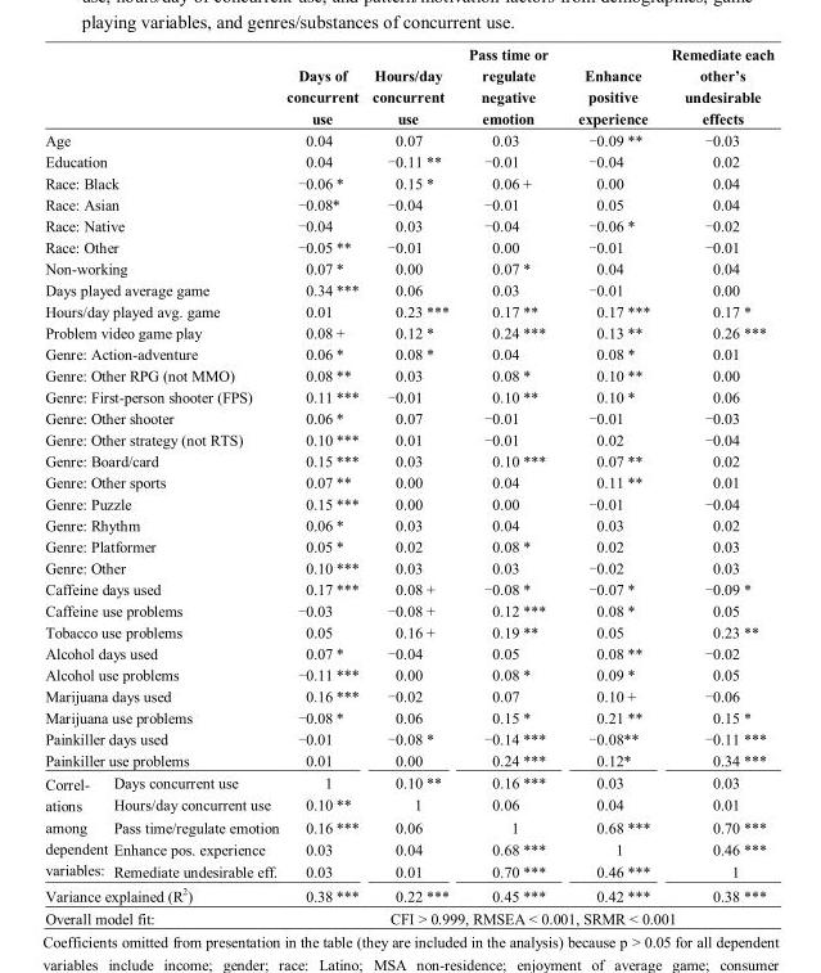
<table><thead><tr><td></td><td></td><td>Days of concurrent use</td><td>Hours/day concurrent use</td><td>Pass time or regulate negative emotion</td><td>Enhance positive experience</td><td>Remediate each other’s undesirable effects</td></tr></thead><tbody><tr><td colspan="2">Age</td><td>0.04</td><td>0.07</td><td>0.03</td><td>-0.09 **</td><td>-0.03</td></tr><tr><td colspan="2">Education</td><td>0.04</td><td>-0.11 **</td><td>-0.01</td><td>-0.04</td><td>0.02</td></tr><tr><td colspan="2">Race: Black</td><td>-0.06 *</td><td>0.15 *</td><td>0.06 +</td><td>0.00</td><td>0.04</td></tr><tr><td colspan="2">Race: Asian</td><td>-0.08 *</td><td>-0.04</td><td>-0.01</td><td>0.05</td><td>0.04</td></tr><tr><td colspan="2">Race: Native</td><td>-0.04</td><td>0.03</td><td>-0.04</td><td>-0.06 *</td><td>-0.02</td></tr><tr><td colspan="2">Race: Other</td><td>-0.05 **</td><td>-0.01</td><td>0.00</td><td>-0.01</td><td>-0.01</td></tr><tr><td colspan="2">Non-working</td><td>0.07 *</td><td>0.00</td><td>0.07 *</td><td>0.04</td><td>0.04</td></tr><tr><td colspan="2">Days played average game</td><td>0.34 ***</td><td>0.06</td><td>0.03</td><td>-0.01</td><td>0.00</td></tr><tr><td colspan="2">Hours/day played avg. game</td><td>0.01</td><td>0.23 ***</td><td>0.17 **</td><td>0.17 ***</td><td>0.17 *</td></tr><tr><td colspan="2">Problem video game play</td><td>0.08 +</td><td>0.12 *</td><td>0.24 ***</td><td>0.13 **</td><td>0.26 ***</td></tr><tr><td colspan="2">Genre: Action-adventure</td><td>0.06 *</td><td>0.08 *</td><td>0.04</td><td>0.08 *</td><td>0.01</td></tr><tr><td colspan="2">Genre: Other RPG (not MMO)</td><td>0.08 **</td><td>0.03</td><td>0.08 *</td><td>0.10 **</td><td>0.00</td></tr><tr><td colspan="2">Genre: First-person shooter (FPS)</td><td>0.11 ***</td><td>-0.01</td><td>0.10 **</td><td>0.10 *</td><td>0.06</td></tr><tr><td colspan="2">Genre: Other shooter</td><td>0.06 *</td><td>0.07</td><td>-0.01</td><td>-0.01</td><td>-0.03</td></tr><tr><td colspan="2">Genre: Other strategy (not RTS)</td><td>0.10 ***</td><td>0.01</td><td>-0.01</td><td>0.02</td><td>-0.04</td></tr><tr><td colspan="2">Genre: Board/card</td><td>0.15 ***</td><td>0.03</td><td>0.10 ***</td><td>0.07 **</td><td>0.02</td></tr><tr><td colspan="2">Genre: Other sports</td><td>0.07 **</td><td>0.00</td><td>0.04</td><td>0.11 **</td><td>0.01</td></tr><tr><td colspan="2">Genre: Puzzle</td><td>0.15 ***</td><td>0.00</td><td>0.00</td><td>-0.01</td><td>-0.04</td></tr><tr><td colspan="2">Genre: Rhythm</td><td>0.06 *</td><td>0.03</td><td>0.04</td><td>0.03</td><td>0.02</td></tr><tr><td colspan="2">Genre: Platformer</td><td>0.05 *</td><td>0.02</td><td>0.08 *</td><td>0.02</td><td>0.03</td></tr><tr><td colspan="2">Genre: Other</td><td>0.10 ***</td><td>0.03</td><td>0.03</td><td>-0.02</td><td>0.03</td></tr><tr><td colspan="2">Caffeine days used</td><td>0.17 ***</td><td>0.08 +</td><td>-0.08 *</td><td>-0.07 *</td><td>-0.09 *</td></tr><tr><td colspan="2">Caffeine use problems</td><td>-0.03</td><td>-0.08 +</td><td>0.12 ***</td><td>0.08 *</td><td>0.05</td></tr><tr><td colspan="2">Tobacco use problems</td><td>0.05</td><td>0.16 +</td><td>0.19 **</td><td>0.05</td><td>0.23 **</td></tr><tr><td colspan="2">Alcohol days used</td><td>0.07 *</td><td>-0.04</td><td>0.05</td><td>0.08 **</td><td>-0.02</td></tr><tr><td colspan="2">Alcohol use problems</td><td>-0.11 ***</td><td>0.00</td><td>0.08 *</td><td>0.09 *</td><td>0.05</td></tr><tr><td colspan="2">Marijuana days used</td><td>0.16 ***</td><td>-0.02</td><td>0.07</td><td>0.10 +</td><td>-0.06</td></tr><tr><td colspan="2">Marijuana use problems</td><td>-0.08 *</td><td>0.06</td><td>0.15 *</td><td>0.21 **</td><td>0.15 *</td></tr><tr><td colspan="2">Painkiller days used</td><td>-0.01</td><td>-0.08 *</td><td>-0.14 ***</td><td>-0.08 **</td><td>-0.11 ***</td></tr><tr><td colspan="2">Painkiller use problems</td><td>0.01</td><td>0.00</td><td>0.24 ***</td><td>0.12 *</td><td>0.34 ***</td></tr><tr><td rowspan="5">Correl- ations among dependent variables:</td><td>Days concurrent use</td><td>1</td><td>0.10 **</td><td>0.16 ***</td><td>0.03</td><td>0.03</td></tr><tr><td>Hours/day concurrent use</td><td>0.10 **</td><td>1</td><td>0.06</td><td>0.04</td><td>0.01</td></tr><tr><td>Pass time/regulate emotion</td><td>0.16 ***</td><td>0.06</td><td>1</td><td>0.68 ***</td><td>0.70 ***</td></tr><tr><td>Enhance pos. experience</td><td>0.03</td><td>0.04</td><td>0.68 ***</td><td>1</td><td>0.46 ***</td></tr><tr><td>Remediate undesirable eff.</td><td>0.03</td><td>0.01</td><td>0.70 ***</td><td>0.46 ***</td><td>1</td></tr><tr><td colspan="2">Variance explained (R<sup>2</sup>)</td><td>0.38 ***</td><td>0.22 ***</td><td>0.45 ***</td><td>0.42 ***</td><td>0.38 ***</td></tr><tr><td colspan="2">Overall model fit:</td><td colspan="5">CFI &gt; 0.999, RMSEA &lt; 0.001, SRMR &lt; 0.001</td></tr></tbody></table>